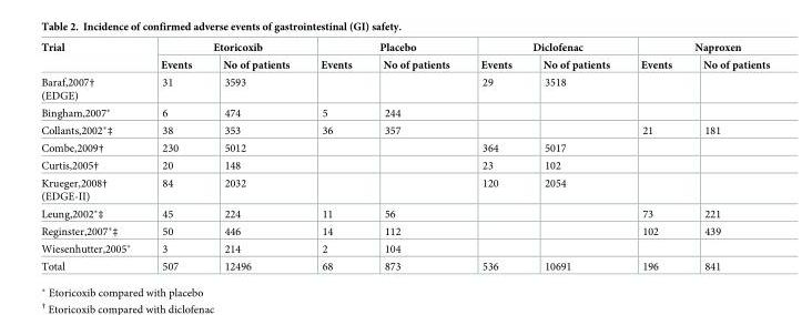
<table><thead><tr><td rowspan="2">Trial</td><td colspan="2">Etoricoxib</td><td colspan="2">Placebo</td><td colspan="2">Diclofenac</td><td colspan="2">Naproxen</td></tr><tr><td>Events</td><td>No of patients</td><td>Events</td><td>No of patients</td><td>Events</td><td>No of patients</td><td>Events</td><td>No of patients</td></tr></thead><tbody><tr><td>Baraf,2007† (EDGE)</td><td>31</td><td>3593</td><td></td><td></td><td>29</td><td>3518</td><td></td><td></td></tr><tr><td>Bingham,2007*</td><td>6</td><td>474</td><td>5</td><td>244</td><td></td><td></td><td></td><td></td></tr><tr><td>Collants,2002*‡</td><td>38</td><td>353</td><td>36</td><td>357</td><td></td><td></td><td>21</td><td>181</td></tr><tr><td>Combe,2009†</td><td>230</td><td>5012</td><td></td><td></td><td>364</td><td>5017</td><td></td><td></td></tr><tr><td>Curtis,2005†</td><td>20</td><td>148</td><td></td><td></td><td>23</td><td>102</td><td></td><td></td></tr><tr><td>Krueger,2008† (EDGE-II)</td><td>84</td><td>2032</td><td></td><td></td><td>120</td><td>2054</td><td></td><td></td></tr><tr><td>Leung,2002*‡</td><td>45</td><td>224</td><td>11</td><td>56</td><td></td><td></td><td>73</td><td>221</td></tr><tr><td>Reginster,2007*‡</td><td>50</td><td>446</td><td>14</td><td>112</td><td></td><td></td><td>102</td><td>439</td></tr><tr><td>Wiesenhutter,2005*</td><td>3</td><td>214</td><td>2</td><td>104</td><td></td><td></td><td></td><td></td></tr><tr><td>Total</td><td>507</td><td>12496</td><td>68</td><td>873</td><td>536</td><td>10691</td><td>196</td><td>841</td></tr></tbody></table>